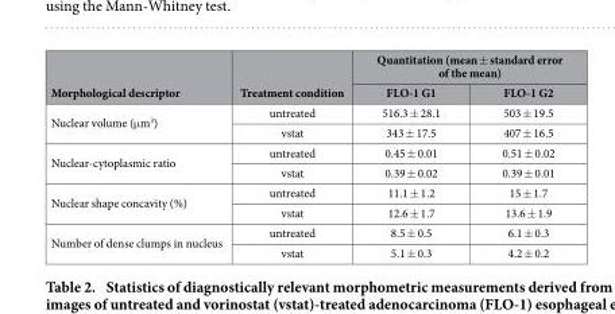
<table><thead><tr><td rowspan="2">Morphological descriptor</td><td rowspan="2">Treatment condition</td><td colspan="2">Quantitation (mean ± standard error of the mean)</td></tr><tr><td>FLO-1 G1</td><td>FLO-1 G2</td></tr></thead><tbody><tr><td rowspan="2">Nuclear volume (μ m<sup>3</sup>)</td><td>untreated</td><td>516.3 ± 28.1</td><td>503 ± 19.5</td></tr><tr><td>vstat</td><td>343 ± 17.5</td><td>407 ± 16.5</td></tr><tr><td rowspan="2">Nuclear-cytoplasmic ratio</td><td>untreated</td><td>0.45 ± 0.01</td><td>0.51 ± 0.02</td></tr><tr><td>vstat</td><td>0.39 ± 0.02</td><td>0.39 ± 0.01</td></tr><tr><td rowspan="2">Nuclear shape concavity (%)</td><td>untreated</td><td>11.1 ± 1.2</td><td>15 ± 1.7</td></tr><tr><td>vstat</td><td>12.6 ± 1.7</td><td>13.6 ± 1.9</td></tr><tr><td rowspan="2">Number of dense clumps in nucleus</td><td>untreated</td><td>8.5 ± 0.5</td><td>6.1 ± 0.3</td></tr><tr><td>vstat</td><td>5.1 ± 0.3</td><td>4.2 ± 0.2</td></tr></tbody></table>